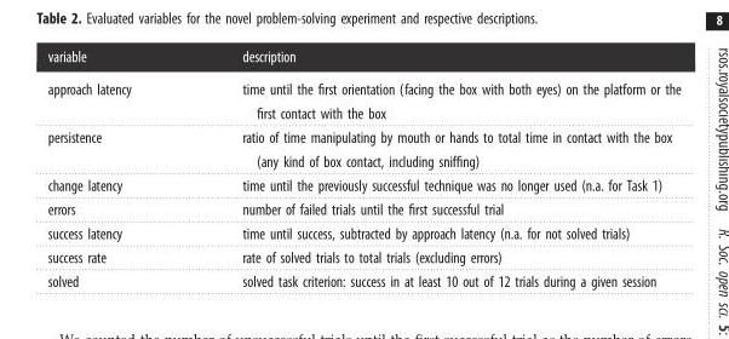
<table><thead><tr><td>variable</td><td>description</td></tr></thead><tbody><tr><td>approach latency</td><td>time until the first orientation (facing the box with both eyes) on the platform or the first contact with the box</td></tr><tr><td>persistence</td><td>ratio of time manipulating by mouth or hands to total time in contact with the box (any kind of box contact, including sniffing)</td></tr><tr><td>change latency</td><td>time until the previously successful technique was no longer used (n.a. for Task 1)</td></tr><tr><td>errors</td><td>number of failed trials until the first successful trial</td></tr><tr><td>success latency</td><td>time until success, subtracted by approach latency (n.a. for not solved trials)</td></tr><tr><td>success rate</td><td>rate of solved trials to total trials (excluding errors)</td></tr><tr><td>solved</td><td>solved task criterion: success in at least 10 out of 12 trials during a given session</td></tr></tbody></table>